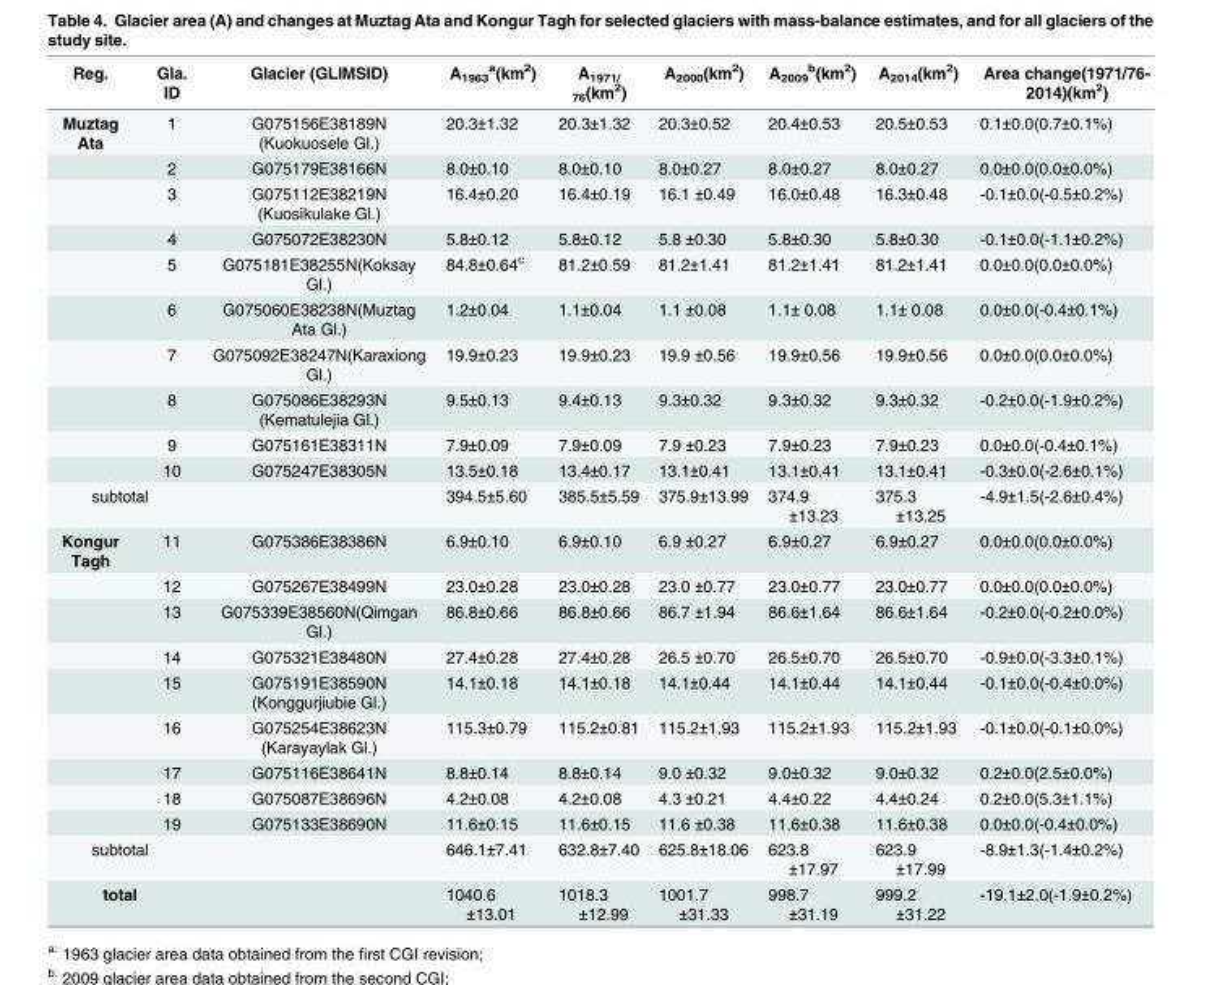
<table><thead><tr><td>Reg.</td><td>Gla. ID</td><td>Glacier (GLIMSID)</td><td>A<sub>1963</sub> <sup>a</sup>(km<sup>2</sup>)</td><td>A<sub>1971/ 76</sub>(km<sup>2</sup>)</td><td>A<sub>2000</sub>(km<sup>2</sup>)</td><td>A<sub>2009</sub> <sup>b</sup>(km<sup>2</sup>)</td><td>A<sub>2014</sub>(km<sup>2</sup>)</td><td>Area change(1971/76- 2014)(km<sup>2</sup>)</td></tr></thead><tbody><tr><td rowspan="10">Muztag Ata</td><td>1</td><td>G075156E38189N (Kuokuosele Gl.)</td><td>20.3±1.32</td><td>20.3±1.32</td><td>20.3±0.52</td><td>20.4±0.53</td><td>20.5±0.53</td><td>0.1±0.0(0.7±0.1%)</td></tr><tr><td>2</td><td>G075179E38166N</td><td>8.0±0.10</td><td>8.0±0.10</td><td>8.0±0.27</td><td>8.0±0.27</td><td>8.0±0.27</td><td>0.0±0.0(0.0±0.0%)</td></tr><tr><td>3</td><td>G075112E38219N (Kuosikulake Gl.)</td><td>16.4±0.20</td><td>16.4±0.19</td><td>16.1 ±0.49</td><td>16.0±0.48</td><td>16.3±0.48</td><td>-0.1±0.0(-0.5±0.2%)</td></tr><tr><td>4</td><td>G075072E38230N</td><td>5.8±0.12</td><td>5.8±0.12</td><td>5.8 ±0.30</td><td>5.8±0.30</td><td>5.8±0.30</td><td>-0.1±0.0(-1.1±0.2%)</td></tr><tr><td>5</td><td>G075181E38255N(Koksay Gl.)</td><td>84.8±0.64<sup>c</sup></td><td>81.2±0.59</td><td>81.2±1.41</td><td>81.2±1.41</td><td>81.2±1.41</td><td>0.0±0.0(0.0±0.0%)</td></tr><tr><td>6</td><td>G075060E38238N(Muztag Ata Gl.)</td><td>1.2±0.04</td><td>1.1±0.04</td><td>1.1 ±0.08</td><td>1.1± 0.08</td><td>1.1± 0.08</td><td>0.0±0.0(-0.4±0.1%)</td></tr><tr><td>7</td><td>G075092E38247N(Karaxiong Gl.)</td><td>19.9±0.23</td><td>19.9±0.23</td><td>19.9 ±0.56</td><td>19.9±0.56</td><td>19.9±0.56</td><td>0.0±0.0(0.0±0.0%)</td></tr><tr><td>8</td><td>G075086E38293N (Kematulejia Gl.)</td><td>9.5±0.13</td><td>9.4±0.13</td><td>9.3±0.32</td><td>9.3±0.32</td><td>9.3±0.32</td><td>-0.2±0.0(-1.9±0.2%)</td></tr><tr><td>9</td><td>G075161E38311N</td><td>7.9±0.09</td><td>7.9±0.09</td><td>7.9 ±0.23</td><td>7.9±0.23</td><td>7.9±0.23</td><td>0.0±0.0(-0.4±0.1%)</td></tr><tr><td>10</td><td>G075247E38305N</td><td>13.5±0.18</td><td>13.4±0.17</td><td>13.1±0.41</td><td>13.1±0.41</td><td>13.1±0.41</td><td>-0.3±0.0(-2.6±0.1%)</td></tr><tr><td colspan="2">subtotal</td><td></td><td>394.5±5.60</td><td>385.5±5.59</td><td>375.9±13.99</td><td>374.9 ±13.23</td><td>375.3 ±13.25</td><td>-4.9±1.5(-2.6±0.4%)</td></tr><tr><td rowspan="9">Kongur Tagh</td><td>11</td><td>G075386E38386N</td><td>6.9±0.10</td><td>6.9±0.10</td><td>6.9 ±0.27</td><td>6.9±0.27</td><td>6.9±0.27</td><td>0.0±0.0(0.0±0.0%)</td></tr><tr><td>12</td><td>G075267E38499N</td><td>23.0±0.28</td><td>23.0±0.28</td><td>23.0 ±0.77</td><td>23.0±0.77</td><td>23.0±0.77</td><td>0.0±0.0(0.0±0.0%)</td></tr><tr><td>13</td><td>G075339E38560N(Qimgan Gl.)</td><td>86.8±0.66</td><td>86.8±0.66</td><td>86.7 ±1.94</td><td>86.6±1.64</td><td>86.6±1.64</td><td>-0.2±0.0(-0.2±0.0%)</td></tr><tr><td>14</td><td>G075321E38480N</td><td>27.4±0.28</td><td>27.4±0.28</td><td>26.5 ±0.70</td><td>26.5±0.70</td><td>26.5±0.70</td><td>-0.9±0.0(-3.3±0.1%)</td></tr><tr><td>15</td><td>G075191E38590N (Konggurjiubie Gl.)</td><td>14.1±0.18</td><td>14.1±0.18</td><td>14.1±0.44</td><td>14.1±0.44</td><td>14.1±0.44</td><td>-0.1±0.0(-0.4±0.0%)</td></tr><tr><td>16</td><td>G075254E38623N (Karayaylak Gl.)</td><td>115.3±0.79</td><td>115.2±0.81</td><td>115.2±1.93</td><td>115.2±1.93</td><td>115.2±1.93</td><td>-0.1±0.0(-0.1±0.0%)</td></tr><tr><td>17</td><td>G075116E38641N</td><td>8.8±0.14</td><td>8.8±0.14</td><td>9.0 ±0.32</td><td>9.0±0.32</td><td>9.0±0.32</td><td>0.2±0.0(2.5±0.0%)</td></tr><tr><td>18</td><td>G075087E38696N</td><td>4.2±0.08</td><td>4.2±0.08</td><td>4.3 ±0.21</td><td>4.4±0.22</td><td>4.4±0.24</td><td>0.2±0.0(5.3±1.1%)</td></tr><tr><td>19</td><td>G075133E38690N</td><td>11.6±0.15</td><td>11.6±0.15</td><td>11.6 ±0.38</td><td>11.6±0.38</td><td>11.6±0.38</td><td>0.0±0.0(-0.4±0.0%)</td></tr><tr><td colspan="2">subtotal</td><td></td><td>646.1±7.41</td><td>632.8±7.40</td><td>625.8±18.06</td><td>623.8 ±17.97</td><td>623.9 ±17.99</td><td>-8.9±1.3(-1.4±0.2%)</td></tr><tr><td colspan="2">total</td><td></td><td>1040.6 ±13.01</td><td>1018.3 ±12.99</td><td>1001.7 ±31.33</td><td>998.7 ±31.19</td><td>999.2 ±31.22</td><td>-19.1±2.0(-1.9±0.2%)</td></tr></tbody></table>